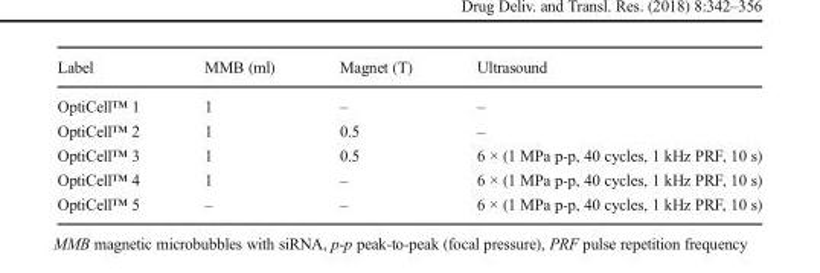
<table><thead><tr><td>Label</td><td>MMB (ml)</td><td>Magnet (T)</td><td>Ultrasound</td></tr></thead><tbody><tr><td>OptiCell™ 1</td><td>1</td><td>–</td><td>–</td></tr><tr><td>OptiCell™ 2</td><td>1</td><td>0.5</td><td>–</td></tr><tr><td>OptiCell™ 3</td><td>1</td><td>0.5</td><td>6 × (1 MPa p-p, 40 cycles, 1 kHz PRF, 10 s)</td></tr><tr><td>OptiCell™ 4</td><td>1</td><td>–</td><td>6 × (1 MPa p-p, 40 cycles, 1 kHz PRF, 10 s)</td></tr><tr><td>OptiCell™ 5</td><td>–</td><td>–</td><td>6 × (1 MPa p-p, 40 cycles, 1 kHz PRF, 10 s)</td></tr></tbody></table>